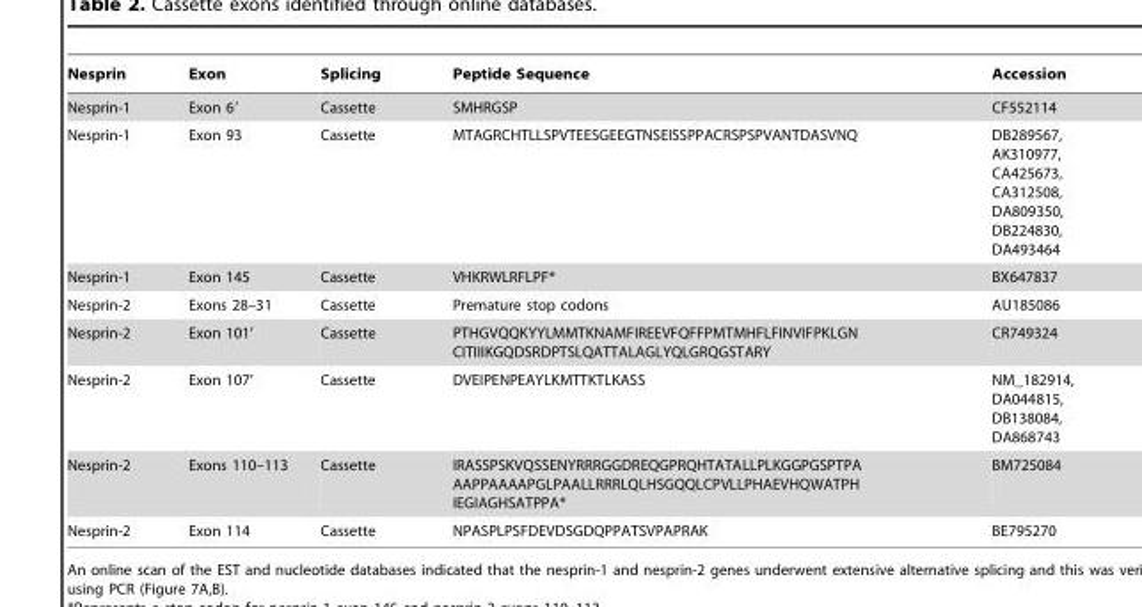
<table><thead><tr><td>Nesprin</td><td>Exon</td><td>Splicing</td><td>Peptide Sequence</td><td>Accession</td></tr></thead><tbody><tr><td>Nesprin-1</td><td>Exon 6′</td><td>Cassette</td><td>SMHRGSP</td><td>CF552114</td></tr><tr><td>Nesprin-1</td><td>Exon 93</td><td>Cassette</td><td>MTAGRCHTLLSPVTEESGEEGTNSEISSPPACRSPSPVANTDASVNQ</td><td>DB289567, AK310977, CA425673, CA312508, DA809350, DB224830, DA493464</td></tr><tr><td>Nesprin-1</td><td>Exon 145</td><td>Cassette</td><td>VHKRWLRFLPF*</td><td>BX647837</td></tr><tr><td>Nesprin-2</td><td>Exons 28–31</td><td>Cassette</td><td>Premature stop codons</td><td>AU185086</td></tr><tr><td>Nesprin-2</td><td>Exon 101’</td><td>Cassette</td><td>PTHGVQQKYYLMMTKNAMFIREEVFQFFPMTMHFLFINVIFPKLGN CITIIIKGQDSRDPTSLQATTALAGLYQLGRQGSTARY</td><td>CR749324</td></tr><tr><td>Nesprin-2</td><td>Exon 107’</td><td>Cassette</td><td>DVEIPENPEAYLKMTTKTLKASS</td><td>NM_182914, DA044815, DB138084, DA868743</td></tr><tr><td>Nesprin-2</td><td>Exons 110–113</td><td>Cassette</td><td>IRASSPSKVQSSENYRRRGGDREQGPRQHTATALLPLKGGPGSPTPA AAPPAAAAPGLPAALLRRRLQLHSGQQLCPVLLPHAEVHQWATPH IEGIAGHSATPPA*</td><td>BM725084</td></tr><tr><td>Nesprin-2</td><td>Exon 114</td><td>Cassette</td><td>NPASPLPSFDEVDSGDQPPATSVPAPRAK</td><td>BE795270</td></tr></tbody></table>